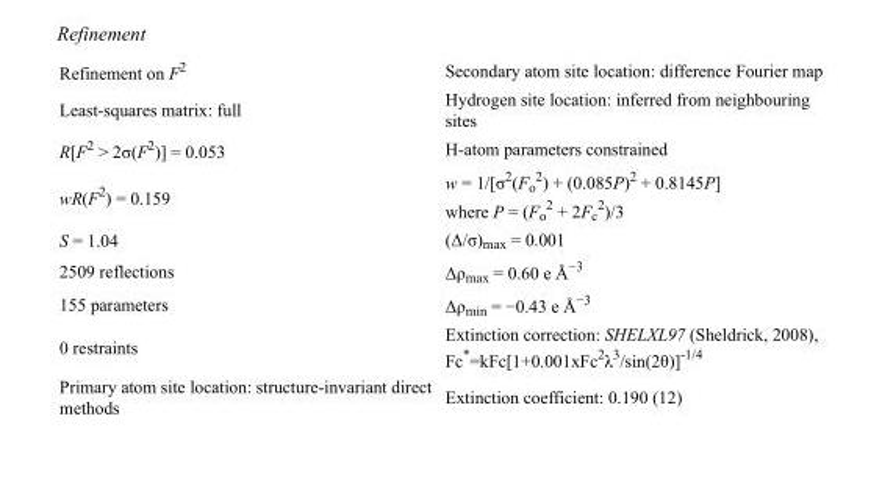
<table><tbody><tr><td>Refinement on F<sup>2</sup></td><td>Secondary atom site location: difference Fourier map</td></tr><tr><td>Least-squares matrix: full</td><td>Hydrogen site location: inferred from neighbouring sites</td></tr><tr><td>R[F<sup>2</sup> &gt; 2σ(F<sup>2</sup>)] = 0.053</td><td>H-atom parameters constrained</td></tr><tr><td>wR(F<sup>2</sup>) = 0.159</td><td>w = 1/[σ<sup>2</sup>(F<sub>o</sub> <sup>2</sup>) + (0.085P)<sup>2</sup> + 0.8145P] where P = (F<sub>o</sub> <sup>2</sup> + 2F<sub>c</sub> <sup>2</sup>)/3</td></tr><tr><td>S = 1.04</td><td>(Δ/σ)<sub>max</sub> = 0.001</td></tr><tr><td>2509 reflections</td><td>Δρ<sub>max</sub> = 0.60 e Å<sup>−3</sup></td></tr><tr><td>155 parameters</td><td>Δρ<sub>min</sub> = −0.43 e Å<sup>−3</sup></td></tr><tr><td>0 restraints</td><td>Extinction correction: SHELXL97 (Sheldrick, 2008), Fc*=kFc[1+0.001xFc<sup>2</sup>λ<sup>3</sup>/sin(2θ)]<sup>-1/4</sup></td></tr><tr><td>Primary atom site location: structure-invariant direct methods</td><td>Extinction coefficient: 0.190 (12)</td></tr></tbody></table>